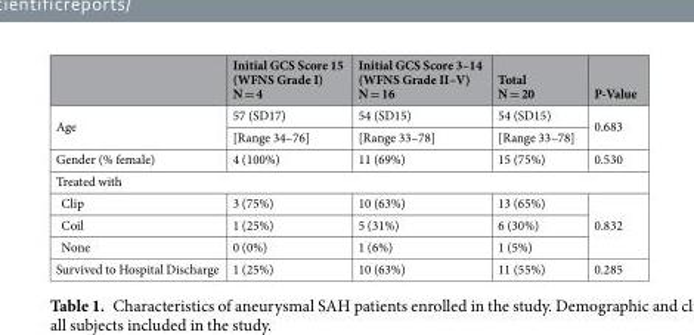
<table><thead><tr><td></td><td>Initial GCS Score 15 (WFNS Grade I) N = 4</td><td>Initial GCS Score 3–14 (WFNS Grade II–V) N = 16</td><td>Total N = 20</td><td>P-Value</td></tr></thead><tbody><tr><td rowspan="2">Age</td><td>57 (SD17)</td><td>54 (SD15)</td><td>54 (SD15)</td><td rowspan="2">0.683</td></tr><tr><td>[Range 34–76]</td><td>[Range 33–78]</td><td>[Range 33–78]</td></tr><tr><td>Gender (% female)</td><td>4 (100%)</td><td>11 (69%)</td><td>15 (75%)</td><td>0.530</td></tr><tr><td colspan="5">Treated with</td></tr><tr><td>Clip</td><td>3 (75%)</td><td>10 (63%)</td><td>13 (65%)</td><td rowspan="3">0.832</td></tr><tr><td>Coil</td><td>1 (25%)</td><td>5 (31%)</td><td>6 (30%)</td></tr><tr><td>None</td><td>0 (0%)</td><td>1 (6%)</td><td>1 (5%)</td></tr><tr><td>Survived to Hospital Discharge</td><td>1 (25%)</td><td>10 (63%)</td><td>11 (55%)</td><td>0.285</td></tr></tbody></table>